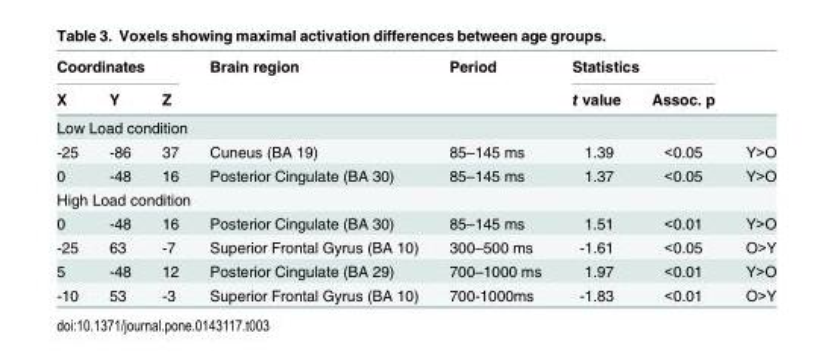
<table><thead><tr><td colspan="3">Coordinates</td><td rowspan="2">Brain region</td><td rowspan="2">Period</td><td colspan="2">Statistics</td><td rowspan="2"></td></tr><tr><td>X</td><td>Y</td><td>Z</td><td>t value</td><td>Assoc. p</td></tr></thead><tbody><tr><td colspan="8">Low Load condition</td></tr><tr><td>-25</td><td>-86</td><td>37</td><td>Cuneus (BA 19)</td><td>85–145 ms</td><td>1.39</td><td>&lt;0.05</td><td>Y&gt;O</td></tr><tr><td>0</td><td>-48</td><td>16</td><td>Posterior Cingulate (BA 30)</td><td>85–145 ms</td><td>1.37</td><td>&lt;0.05</td><td>Y&gt;O</td></tr><tr><td colspan="8">High Load condition</td></tr><tr><td>0</td><td>-48</td><td>16</td><td>Posterior Cingulate (BA 30)</td><td>85–145 ms</td><td>1.51</td><td>&lt;0.01</td><td>Y&gt;O</td></tr><tr><td>-25</td><td>63</td><td>-7</td><td>Superior Frontal Gyrus (BA 10)</td><td>300–500 ms</td><td>-1.61</td><td>&lt;0.05</td><td>O&gt;Y</td></tr><tr><td>5</td><td>-48</td><td>12</td><td>Posterior Cingulate (BA 29)</td><td>700–1000 ms</td><td>1.97</td><td>&lt;0.01</td><td>Y&gt;O</td></tr><tr><td>-10</td><td>53</td><td>-3</td><td>Superior Frontal Gyrus (BA 10)</td><td>700-1000ms</td><td>-1.83</td><td>&lt;0.01</td><td>O&gt;Y</td></tr></tbody></table>